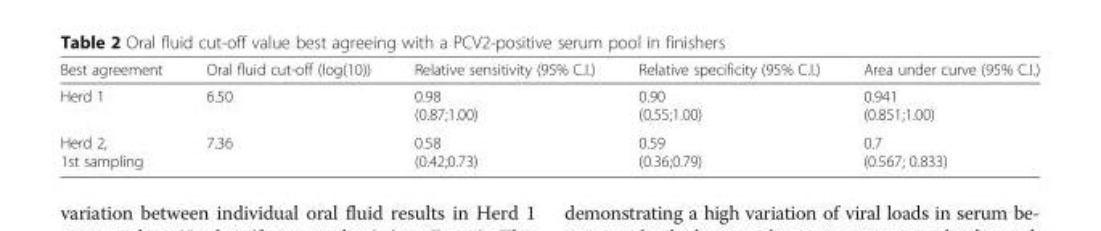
<table><thead><tr><td>Best agreement</td><td>Oral fluid cut-off (log(10))</td><td>Relative sensitivity (95% C.I.)</td><td>Relative specificity (95% C.I.)</td><td>Area under curve (95% C.I.)</td></tr></thead><tbody><tr><td>Herd 1</td><td>6.50</td><td>0.98 (0.87;1.00)</td><td>0.90 (0.55;1.00)</td><td>0.941 (0.851;1.00)</td></tr><tr><td>Herd 2, 1st sampling</td><td>7.36</td><td>0.58 (0.42;0.73)</td><td>0.59 (0.36;0.79)</td><td>0.7 (0.567; 0.833)</td></tr></tbody></table>